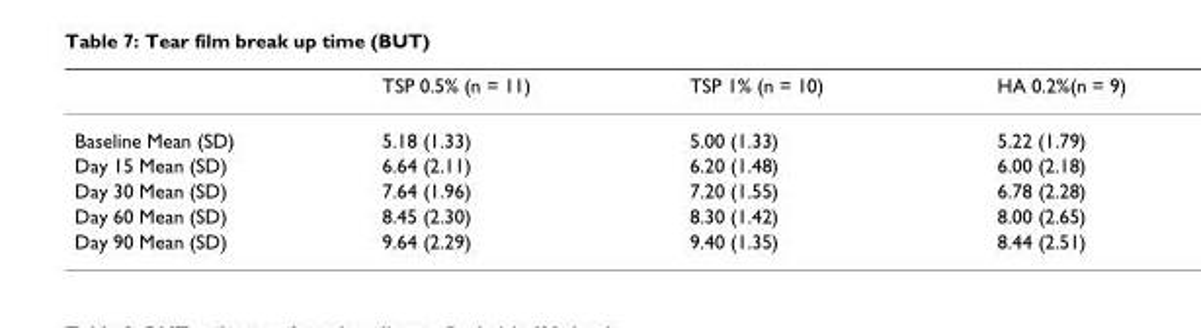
<table><thead><tr><td></td><td>TSP 0.5% (n = 11)</td><td>TSP 1% (n = 10)</td><td>HA 0.2%(n = 9)</td></tr></thead><tbody><tr><td>Baseline Mean (SD)</td><td>5.18 (1.33)</td><td>5.00 (1.33)</td><td>5.22 (1.79)</td></tr><tr><td>Day 15 Mean (SD)</td><td>6.64 (2.11)</td><td>6.20 (1.48)</td><td>6.00 (2.18)</td></tr><tr><td>Day 30 Mean (SD)</td><td>7.64 (1.96)</td><td>7.20 (1.55)</td><td>6.78 (2.28)</td></tr><tr><td>Day 60 Mean (SD)</td><td>8.45 (2.30)</td><td>8.30 (1.42)</td><td>8.00 (2.65)</td></tr><tr><td>Day 90 Mean (SD)</td><td>9.64 (2.29)</td><td>9.40 (1.35)</td><td>8.44 (2.51)</td></tr></tbody></table>